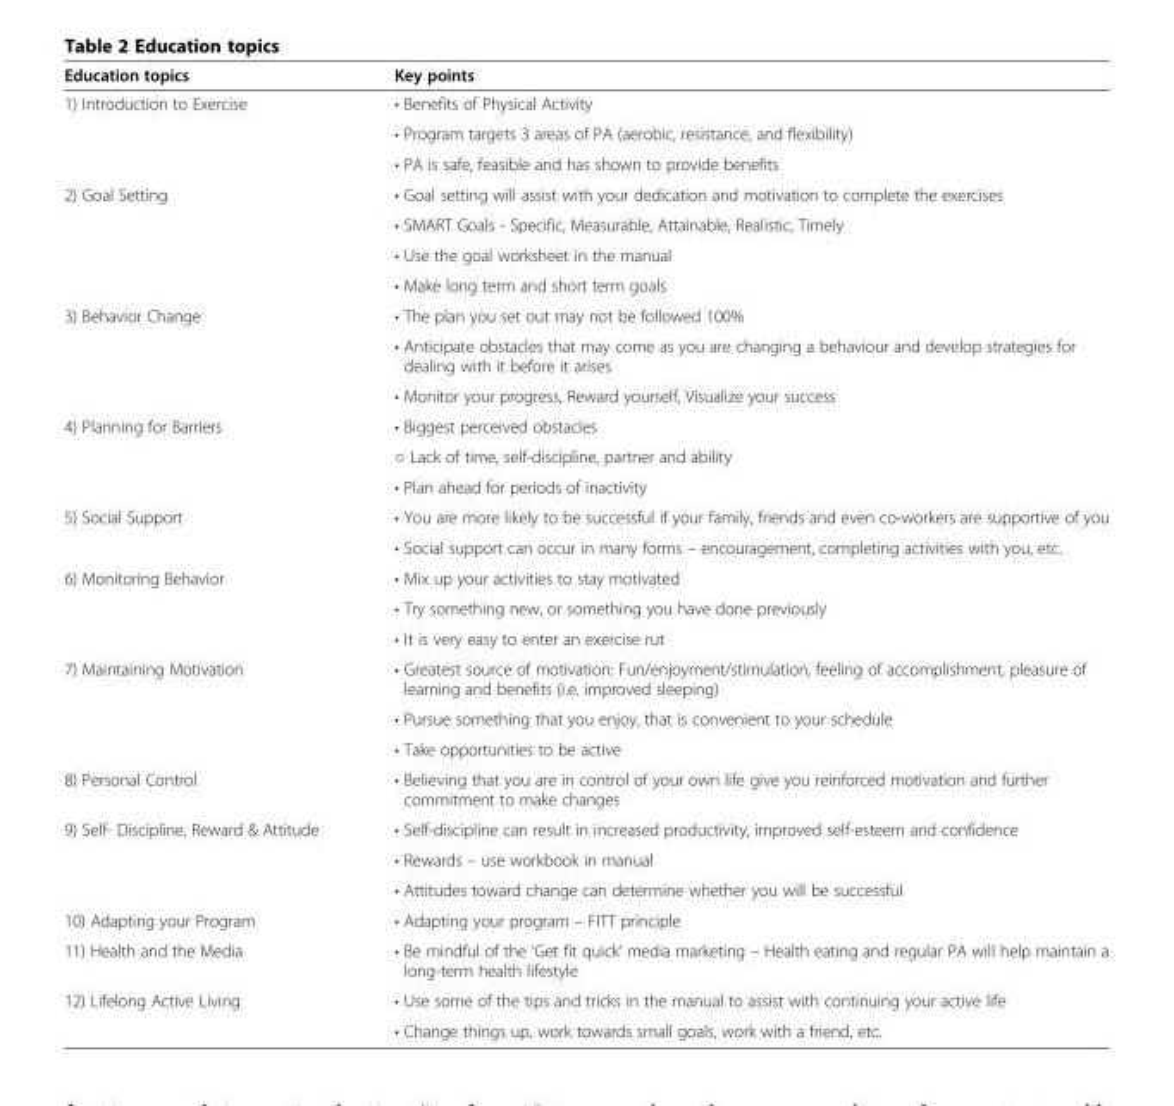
<table><thead><tr><td>Education topics</td><td>Key points</td></tr></thead><tbody><tr><td rowspan="3">1) Introduction to Exercise</td><td>• Benefits of Physical Activity</td></tr><tr><td>• Program targets 3 areas of PA (aerobic, resistance, and flexibility)</td></tr><tr><td>• PA is safe, feasible and has shown to provide benefits</td></tr><tr><td rowspan="4">2) Goal Setting</td><td>• Goal setting will assist with your dedication and motivation to complete the exercises</td></tr><tr><td>• SMART Goals - Specific, Measurable, Attainable, Realistic, Timely</td></tr><tr><td>• Use the goal worksheet in the manual</td></tr><tr><td>• Make long term and short term goals</td></tr><tr><td rowspan="3">3) Behavior Change</td><td>• The plan you set out may not be followed 100%</td></tr><tr><td>• Anticipate obstacles that may come as you are changing a behaviour and develop strategies for dealing with it before it arises</td></tr><tr><td>• Monitor your progress, Reward yourself, Visualize your success</td></tr><tr><td rowspan="3">4) Planning for Barriers</td><td>• Biggest perceived obstacles</td></tr><tr><td>○ Lack of time, self-discipline, partner and ability</td></tr><tr><td>• Plan ahead for periods of inactivity</td></tr><tr><td rowspan="2">5) Social Support</td><td>• You are more likely to be successful if your family, friends and even co-workers are supportive of you</td></tr><tr><td>• Social support can occur in many forms – encouragement, completing activities with you, etc.</td></tr><tr><td rowspan="3">6) Monitoring Behavior</td><td>• Mix up your activities to stay motivated</td></tr><tr><td>• Try something new, or something you have done previously</td></tr><tr><td>• It is very easy to enter an exercise rut</td></tr><tr><td rowspan="3">7) Maintaining Motivation</td><td>• Greatest source of motivation: Fun/enjoyment/stimulation, feeling of accomplishment, pleasure of learning and benefits (i.e. improved sleeping)</td></tr><tr><td>• Pursue something that you enjoy, that is convenient to your schedule</td></tr><tr><td>• Take opportunities to be active</td></tr><tr><td>8) Personal Control</td><td>• Believing that you are in control of your own life give you reinforced motivation and further commitment to make changes</td></tr><tr><td rowspan="3">9) Self- Discipline, Reward &amp; Attitude</td><td>• Self-discipline can result in increased productivity, improved self-esteem and confidence</td></tr><tr><td>• Rewards – use workbook in manual</td></tr><tr><td>• Attitudes toward change can determine whether you will be successful</td></tr><tr><td>10) Adapting your Program</td><td>• Adapting your program – FITT principle</td></tr><tr><td>11) Health and the Media</td><td>• Be mindful of the ‘Get fit quick’ media marketing – Health eating and regular PA will help maintain a long-term health lifestyle</td></tr><tr><td rowspan="2">12) Lifelong Active Living</td><td>• Use some of the tips and tricks in the manual to assist with continuing your active life</td></tr><tr><td>• Change things up, work towards small goals, work with a friend, etc.</td></tr></tbody></table>